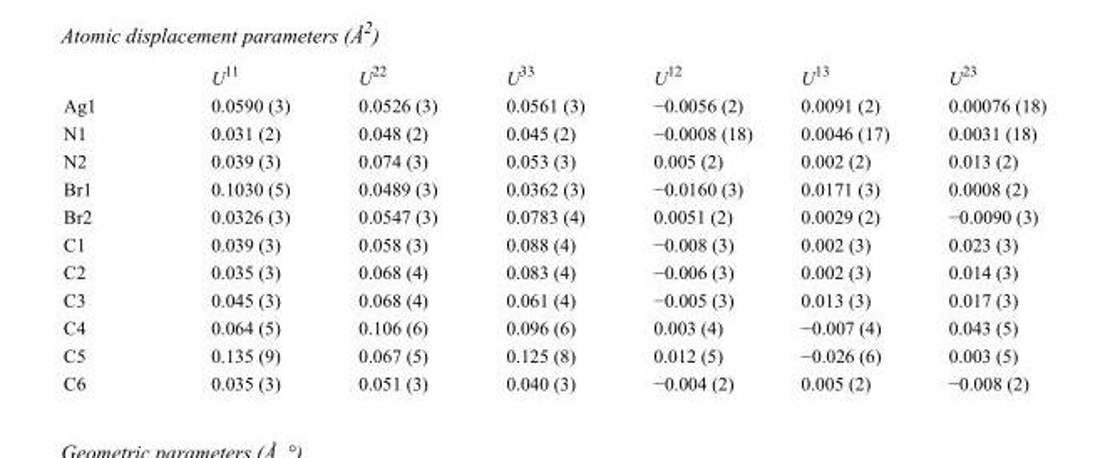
<table><thead><tr><td></td><td>U<sup>11</sup></td><td>U<sup>22</sup></td><td>U<sup>33</sup></td><td>U<sup>12</sup></td><td>U<sup>13</sup></td><td>U<sup>23</sup></td></tr></thead><tbody><tr><td>Ag1</td><td>0.0590 (3)</td><td>0.0526 (3)</td><td>0.0561 (3)</td><td>−0.0056 (2)</td><td>0.0091 (2)</td><td>0.00076 (18)</td></tr><tr><td>N1</td><td>0.031 (2)</td><td>0.048 (2)</td><td>0.045 (2)</td><td>−0.0008 (18)</td><td>0.0046 (17)</td><td>0.0031 (18)</td></tr><tr><td>N2</td><td>0.039 (3)</td><td>0.074 (3)</td><td>0.053 (3)</td><td>0.005 (2)</td><td>0.002 (2)</td><td>0.013 (2)</td></tr><tr><td>Br1</td><td>0.1030 (5)</td><td>0.0489 (3)</td><td>0.0362 (3)</td><td>−0.0160 (3)</td><td>0.0171 (3)</td><td>0.0008 (2)</td></tr><tr><td>Br2</td><td>0.0326 (3)</td><td>0.0547 (3)</td><td>0.0783 (4)</td><td>0.0051 (2)</td><td>0.0029 (2)</td><td>−0.0090 (3)</td></tr><tr><td>C1</td><td>0.039 (3)</td><td>0.058 (3)</td><td>0.088 (4)</td><td>−0.008 (3)</td><td>0.002 (3)</td><td>0.023 (3)</td></tr><tr><td>C2</td><td>0.035 (3)</td><td>0.068 (4)</td><td>0.083 (4)</td><td>−0.006 (3)</td><td>0.002 (3)</td><td>0.014 (3)</td></tr><tr><td>C3</td><td>0.045 (3)</td><td>0.068 (4)</td><td>0.061 (4)</td><td>−0.005 (3)</td><td>0.013 (3)</td><td>0.017 (3)</td></tr><tr><td>C4</td><td>0.064 (5)</td><td>0.106 (6)</td><td>0.096 (6)</td><td>0.003 (4)</td><td>−0.007 (4)</td><td>0.043 (5)</td></tr><tr><td>C5</td><td>0.135 (9)</td><td>0.067 (5)</td><td>0.125 (8)</td><td>0.012 (5)</td><td>−0.026 (6)</td><td>0.003 (5)</td></tr><tr><td>C6</td><td>0.035 (3)</td><td>0.051 (3)</td><td>0.040 (3)</td><td>−0.004 (2)</td><td>0.005 (2)</td><td>−0.008 (2)</td></tr></tbody></table>